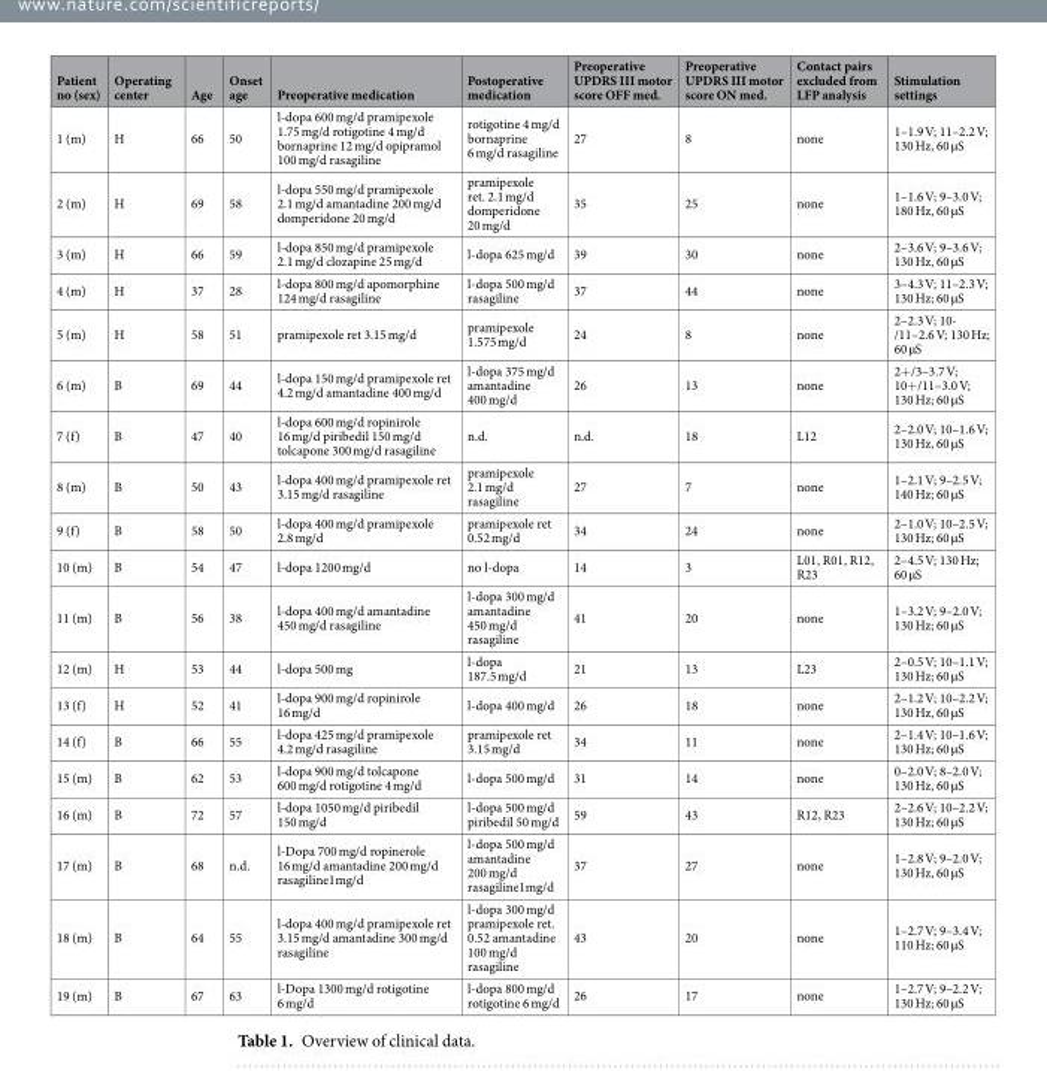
<table><thead><tr><td>Patient no (sex)</td><td>Operating center</td><td>Age</td><td>Onset age</td><td>Preoperative medication</td><td>Postoperative medication</td><td>Preoperative UPDRS III motor score OFF med.</td><td>Preoperative UPDRS III motor score ON med.</td><td>Contact pairs excluded from LFP analysis</td><td>Stimulation settings</td></tr></thead><tbody><tr><td>1 (m)</td><td>H</td><td>66</td><td>50</td><td>l-dopa 600 mg/d pramipexole 1.75 mg/d rotigotine 4 mg/d bornaprine 12 mg/d opipramol 100 mg/d rasagiline</td><td>rotigotine 4 mg/d bornaprine 6 mg/d rasagiline</td><td>27</td><td>8</td><td>none</td><td>1–1.9 V; 11–2.2 V; 130 Hz, 60 µS</td></tr><tr><td>2 (m)</td><td>H</td><td>69</td><td>58</td><td>l-dopa 550 mg/d pramipexole 2.1 mg/d amantadine 200 mg/d domperidone 20 mg/d</td><td>pramipexole ret. 2.1 mg/d domperidone 20 mg/d</td><td>35</td><td>25</td><td>none</td><td>1–1.6 V; 9–3.0 V; 180 Hz, 60 µS</td></tr><tr><td>3 (m)</td><td>H</td><td>66</td><td>59</td><td>l-dopa 850 mg/d pramipexole 2.1 mg/d clozapine 25 mg/d</td><td>l-dopa 625 mg/d</td><td>39</td><td>30</td><td>none</td><td>2–3.6 V; 9–3.6 V; 130 Hz, 60 µS</td></tr><tr><td>4 (m)</td><td>H</td><td>37</td><td>28</td><td>l-dopa 800 mg/d apomorphine 124 mg/d rasagiline</td><td>l-dopa 500 mg/d rasagiline</td><td>37</td><td>44</td><td>none</td><td>3–4.3 V; 11–2.3 V; 130 Hz; 60 µS</td></tr><tr><td>5 (m)</td><td>H</td><td>58</td><td>51</td><td>pramipexole ret 3.15 mg/d</td><td>pramipexole 1.575 mg/d</td><td>24</td><td>8</td><td>none</td><td>2–2.3 V; 10- /11–2.6 V; 130 Hz; 60 µS</td></tr><tr><td>6 (m)</td><td>B</td><td>69</td><td>44</td><td>l-dopa 150 mg/d pramipexole ret 4.2 mg/d amantadine 400 mg/d</td><td>l-dopa 375 mg/d amantadine 400 mg/d</td><td>26</td><td>13</td><td>none</td><td>2+/3–3.7 V; 10+/11–3.0 V; 130 Hz; 60 µS</td></tr><tr><td>7 (f)</td><td>B</td><td>47</td><td>40</td><td>l-dopa 600 mg/d ropinirole 16 mg/d piribedil 150 mg/d tolcapone 300 mg/d rasagiline</td><td>n.d.</td><td>n.d.</td><td>18</td><td>L12</td><td>2–2.0 V; 10–1.6 V; 130 Hz, 60 µS</td></tr><tr><td>8 (m)</td><td>B</td><td>50</td><td>43</td><td>l-dopa 400 mg/d pramipexole ret 3.15 mg/d rasagiline</td><td>pramipexole 2.1 mg/d rasagiline</td><td>27</td><td>7</td><td>none</td><td>1–2.1 V; 9–2.5 V; 140 Hz; 60 µS</td></tr><tr><td>9 (f)</td><td>B</td><td>58</td><td>50</td><td>l-dopa 400 mg/d pramipexole 2.8 mg/d</td><td>pramipexole ret 0.52 mg/d</td><td>34</td><td>24</td><td>none</td><td>2–1.0 V; 10–2.5 V; 130 Hz; 60 µS</td></tr><tr><td>10 (m)</td><td>B</td><td>54</td><td>47</td><td>l-dopa 1200 mg/d</td><td>no l-dopa</td><td>14</td><td>3</td><td>L01, R01, R12, R23</td><td>2–4.5 V; 130 Hz; 60 µS</td></tr><tr><td>11 (m)</td><td>B</td><td>56</td><td>38</td><td>l-dopa 400 mg/d amantadine 450 mg/d rasagiline</td><td>l-dopa 300 mg/d amantadine 450 mg/d rasagiline</td><td>41</td><td>20</td><td>none</td><td>1–3.2 V; 9–2.0 V; 130 Hz; 60 µS</td></tr><tr><td>12 (m)</td><td>H</td><td>53</td><td>44</td><td>l-dopa 500 mg</td><td>l-dopa 187.5 mg/d</td><td>21</td><td>13</td><td>L23</td><td>2–0.5 V; 10–1.1 V; 130 Hz; 60 µS</td></tr><tr><td>13 (f)</td><td>H</td><td>52</td><td>41</td><td>l-dopa 900 mg/d ropinirole 16 mg/d</td><td>l-dopa 400 mg/d</td><td>26</td><td>18</td><td>none</td><td>2–1.2 V; 10–2.2 V; 130 Hz, 60 µS</td></tr><tr><td>14 (f)</td><td>B</td><td>66</td><td>55</td><td>l-dopa 425 mg/d pramipexole 4.2 mg/d rasagiline</td><td>pramipexole ret 3.15 mg/d</td><td>34</td><td>11</td><td>none</td><td>2–1.4 V; 10–1.6 V; 130 Hz; 60 µS</td></tr><tr><td>15 (m)</td><td>B</td><td>62</td><td>53</td><td>l-dopa 900 mg/d tolcapone 600 mg/d rotigotine 4 mg/d</td><td>l-dopa 500 mg/d</td><td>31</td><td>14</td><td>none</td><td>0–2.0 V; 8–2.0 V; 130 Hz, 60 µS</td></tr><tr><td>16 (m)</td><td>B</td><td>72</td><td>57</td><td>l-dopa 1050 mg/d piribedil 150 mg/d</td><td>l-dopa 500 mg/d piribedil 50 mg/d</td><td>59</td><td>43</td><td>R12, R23</td><td>2–2.6 V; 10–2.2 V; 130 Hz; 60 µS</td></tr><tr><td>17 (m)</td><td>B</td><td>68</td><td>n.d.</td><td>l-Dopa 700 mg/d ropinerole 16 mg/d amantadine 200 mg/d rasagiline1mg/d</td><td>l-dopa 500 mg/d amantadine 200 mg/d rasagiline1mg/d</td><td>37</td><td>27</td><td>none</td><td>1–2.8 V; 9–2.0 V; 130 Hz, 60 µS</td></tr><tr><td>18 (m)</td><td>B</td><td>64</td><td>55</td><td>l-dopa 400 mg/d pramipexole ret 3.15 mg/d amantadine 300 mg/d rasagiline</td><td>l-dopa 300 mg/d pramipexole ret. 0.52 amantadine 100 mg/d rasagiline</td><td>43</td><td>20</td><td>none</td><td>1–2.7 V; 9–3.4 V; 110 Hz; 60 µS</td></tr><tr><td>19 (m)</td><td>B</td><td>67</td><td>63</td><td>l-Dopa 1300 mg/d rotigotine 6 mg/d</td><td>l-dopa 800 mg/d rotigotine 6 mg/d</td><td>26</td><td>17</td><td>none</td><td>1–2.7 V; 9–2.2 V; 130 Hz; 60 µS</td></tr></tbody></table>